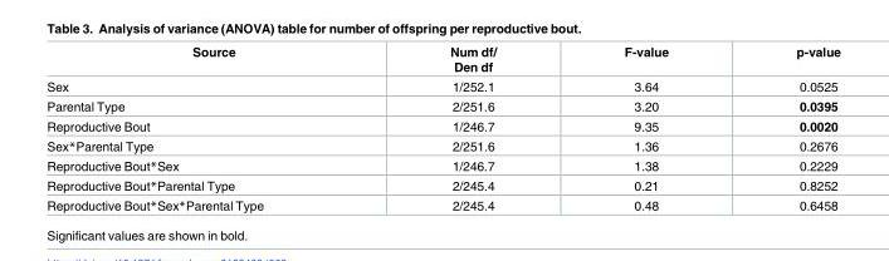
<table><thead><tr><td>Source</td><td>Num df/ Den df</td><td>F-value</td><td>p-value</td></tr></thead><tbody><tr><td>Sex</td><td>1/252.1</td><td>3.64</td><td>0.0525</td></tr><tr><td>Parental Type</td><td>2/251.6</td><td>3.20</td><td>0.0395</td></tr><tr><td>Reproductive Bout</td><td>1/246.7</td><td>9.35</td><td>0.0020</td></tr><tr><td>Sex*Parental Type</td><td>2/251.6</td><td>1.36</td><td>0.2676</td></tr><tr><td>Reproductive Bout*Sex</td><td>1/246.7</td><td>1.38</td><td>0.2229</td></tr><tr><td>Reproductive Bout*Parental Type</td><td>2/245.4</td><td>0.21</td><td>0.8252</td></tr><tr><td>Reproductive Bout*Sex*Parental Type</td><td>2/245.4</td><td>0.48</td><td>0.6458</td></tr></tbody></table>